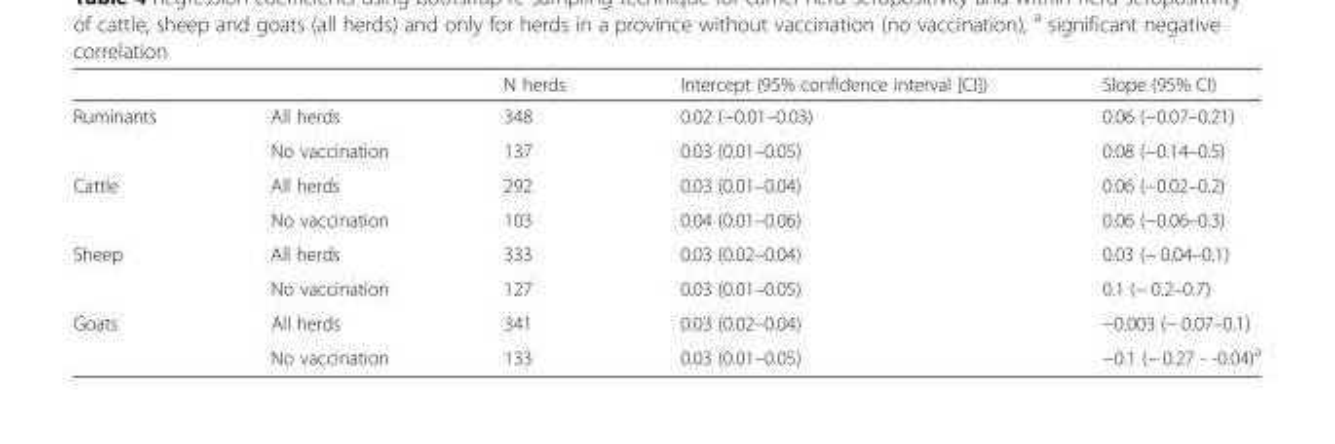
<table><thead><tr><td></td><td></td><td>N herds</td><td>Intercept (95% confidence interval [CI])</td><td>Slope (95% CI)</td></tr></thead><tbody><tr><td rowspan="2">Ruminants</td><td>All herds</td><td>348</td><td>0.02 (−0.01–0.03)</td><td>0.06 (−0.07–0.21)</td></tr><tr><td>No vaccination</td><td>137</td><td>0.03 (0.01–0.05)</td><td>0.08 (−0.14–0.5)</td></tr><tr><td rowspan="2">Cattle</td><td>All herds</td><td>292</td><td>0.03 (0.01–0.04)</td><td>0.06 (−0.02–0.2)</td></tr><tr><td>No vaccination</td><td>103</td><td>0.04 (0.01–0.06)</td><td>0.06 (−0.06–0.3)</td></tr><tr><td rowspan="2">Sheep</td><td>All herds</td><td>333</td><td>0.03 (0.02–0.04)</td><td>0.03 (− 0.04–0.1)</td></tr><tr><td>No vaccination</td><td>127</td><td>0.03 (0.01–0.05)</td><td>0.1 (− 0.2–0.7)</td></tr><tr><td rowspan="2">Goats</td><td>All herds</td><td>341</td><td>0.03 (0.02–0.04)</td><td>−0.003 (− 0.07–0.1)</td></tr><tr><td>No vaccination</td><td>133</td><td>0.03 (0.01–0.05)</td><td>−0.1 (− 0.27 - -0.04)<sup>a</sup></td></tr></tbody></table>